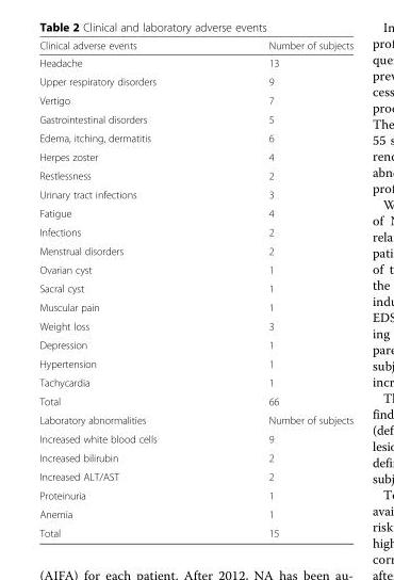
<table><thead><tr><td>Clinical adverse events</td><td>Number of subjects</td></tr></thead><tbody><tr><td>Headache</td><td>13</td></tr><tr><td>Upper respiratory disorders</td><td>9</td></tr><tr><td>Vertigo</td><td>7</td></tr><tr><td>Gastrointestinal disorders</td><td>5</td></tr><tr><td>Edema, itching, dermatitis</td><td>6</td></tr><tr><td>Herpes zoster</td><td>4</td></tr><tr><td>Restlessness</td><td>2</td></tr><tr><td>Urinary tract infections</td><td>3</td></tr><tr><td>Fatigue</td><td>4</td></tr><tr><td>Infections</td><td>2</td></tr><tr><td>Menstrual disorders</td><td>2</td></tr><tr><td>Ovarian cyst</td><td>1</td></tr><tr><td>Sacral cyst</td><td>1</td></tr><tr><td>Muscular pain</td><td>1</td></tr><tr><td>Weight loss</td><td>3</td></tr><tr><td>Depression</td><td>1</td></tr><tr><td>Hypertension</td><td>1</td></tr><tr><td>Tachycardia</td><td>1</td></tr><tr><td>Total</td><td>66</td></tr><tr><td>Laboratory abnormalities</td><td>Number of subjects</td></tr><tr><td>Increased white blood cells</td><td>9</td></tr><tr><td>Increased bilirubin</td><td>2</td></tr><tr><td>Increased ALT/AST</td><td>2</td></tr><tr><td>Proteinuria</td><td>1</td></tr><tr><td>Anemia</td><td>1</td></tr><tr><td>Total</td><td>15</td></tr></tbody></table>